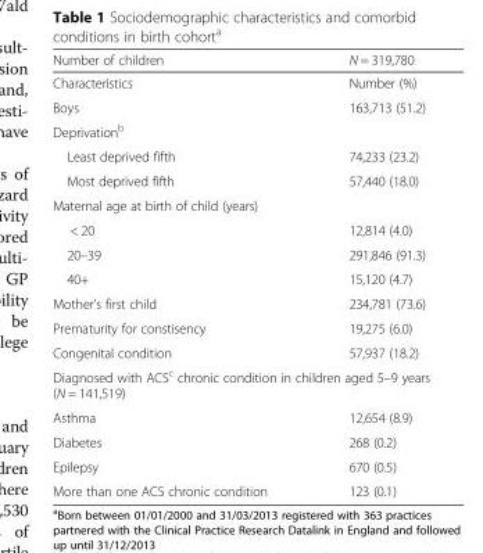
<table><thead><tr><td>Number of children</td><td>N = 319,780</td></tr></thead><tbody><tr><td>Characteristics</td><td>Number (%)</td></tr><tr><td>Boys</td><td>163,713 (51.2)</td></tr><tr><td colspan="2">Deprivation<sup>b</sup></td></tr><tr><td>Least deprived fifth</td><td>74,233 (23.2)</td></tr><tr><td>Most deprived fifth</td><td>57,440 (18.0)</td></tr><tr><td colspan="2">Maternal age at birth of child (years)</td></tr><tr><td>&lt; 20</td><td>12,814 (4.0)</td></tr><tr><td>20–39</td><td>291,846 (91.3)</td></tr><tr><td>40+</td><td>15,120 (4.7)</td></tr><tr><td>Mother’s first child</td><td>234,781 (73.6)</td></tr><tr><td>Prematurity for constisency</td><td>19,275 (6.0)</td></tr><tr><td>Congenital condition</td><td>57,937 (18.2)</td></tr><tr><td colspan="2">Diagnosed with ACS<sup>c</sup> chronic condition in children aged 5–9 years (N = 141,519)</td></tr><tr><td>Asthma</td><td>12,654 (8.9)</td></tr><tr><td>Diabetes</td><td>268 (0.2)</td></tr><tr><td>Epilepsy</td><td>670 (0.5)</td></tr><tr><td>More than one ACS chronic condition</td><td>123 (0.1)</td></tr></tbody></table>